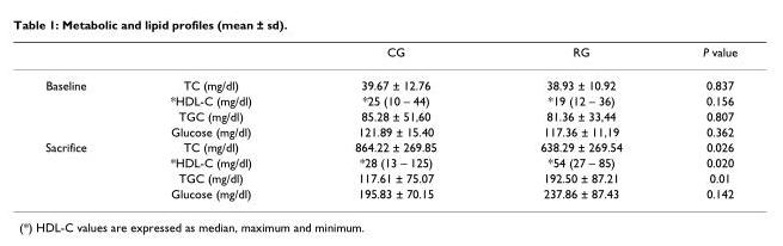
<table><thead><tr><td></td><td></td><td>CG</td><td>RG</td><td>P value</td></tr></thead><tbody><tr><td rowspan="4">Baseline</td><td>TC (mg/dl)</td><td>39.67 ± 12.76</td><td>38.93 ± 10.92</td><td>0.837</td></tr><tr><td>*HDL-C (mg/dl)</td><td>*25 (10 – 44)</td><td>*19 (12 – 36)</td><td>0.156</td></tr><tr><td>TGC (mg/dl)</td><td>85.28 ± 51,60</td><td>81.36 ± 33,44</td><td>0.807</td></tr><tr><td>Glucose (mg/dl)</td><td>121.89 ± 15.40</td><td>117.36 ± 11,19</td><td>0.362</td></tr><tr><td rowspan="4">Sacrifice</td><td>TC (mg/dl)</td><td>864.22 ± 269.85</td><td>638.29 ± 269.54</td><td>0.026</td></tr><tr><td>*HDL-C (mg/dl)</td><td>*28 (13 – 125)</td><td>*54 (27 – 85)</td><td>0.020</td></tr><tr><td>TGC (mg/dl)</td><td>117.61 ± 75.07</td><td>192.50 ± 87.21</td><td>0.01</td></tr><tr><td>Glucose (mg/dl)</td><td>195.83 ± 70.15</td><td>237.86 ± 87.43</td><td>0.142</td></tr></tbody></table>